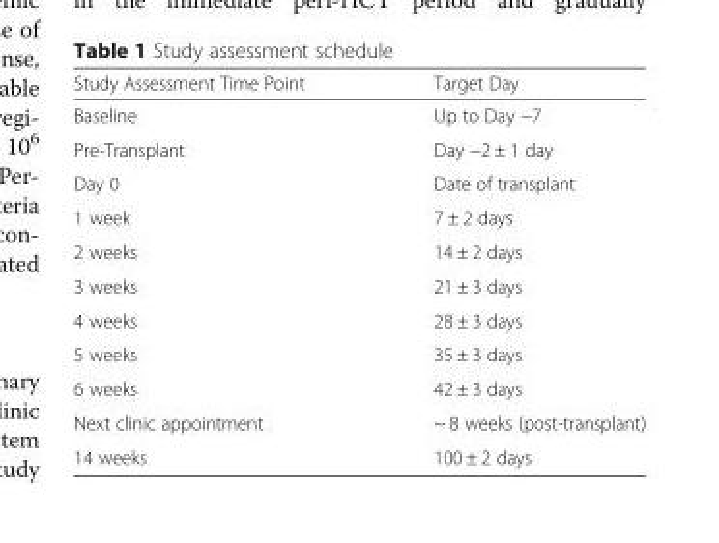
<table><thead><tr><td>Study Assessment Time Point</td><td>Target Day</td></tr></thead><tbody><tr><td>Baseline</td><td>Up to Day −7</td></tr><tr><td>Pre-Transplant</td><td>Day −2 ± 1 day</td></tr><tr><td>Day 0</td><td>Date of transplant</td></tr><tr><td>1 week</td><td>7 ± 2 days</td></tr><tr><td>2 weeks</td><td>14 ± 2 days</td></tr><tr><td>3 weeks</td><td>21 ± 3 days</td></tr><tr><td>4 weeks</td><td>28 ± 3 days</td></tr><tr><td>5 weeks</td><td>35 ± 3 days</td></tr><tr><td>6 weeks</td><td>42 ± 3 days</td></tr><tr><td>Next clinic appointment</td><td>~ 8 weeks (post-transplant)</td></tr><tr><td>14 weeks</td><td>100 ± 2 days</td></tr></tbody></table>